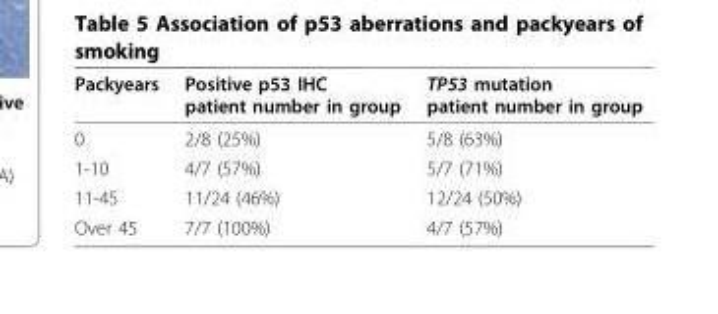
<table><thead><tr><td>Packyears</td><td>Positive p53 IHC patient number in group</td><td>TP53 mutation patient number in group</td></tr></thead><tbody><tr><td>0</td><td>2/8 (25%)</td><td>5/8 (63%)</td></tr><tr><td>1-10</td><td>4/7 (57%)</td><td>5/7 (71%)</td></tr><tr><td>11-45</td><td>11/24 (46%)</td><td>12/24 (50%)</td></tr><tr><td>Over 45</td><td>7/7 (100%)</td><td>4/7 (57%)</td></tr></tbody></table>